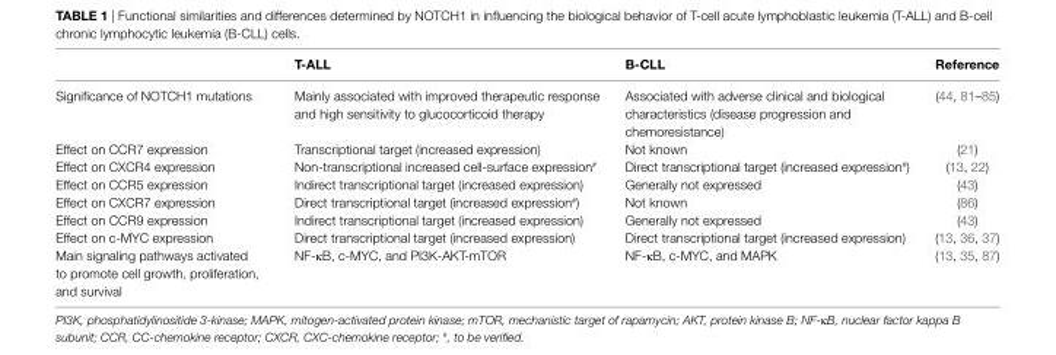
<table><thead><tr><td></td><td>T-ALL</td><td>B-CLL</td><td>Reference</td></tr></thead><tbody><tr><td>Significance of NOTCH1 mutations</td><td>Mainly associated with improved therapeutic response and high sensitivity to glucocorticoid therapy</td><td>Associated with adverse clinical and biological characteristics (disease progression and chemoresistance)</td><td>(44, 81–85)</td></tr><tr><td>Effect on CCR7 expression</td><td>Transcriptional target (increased expression)</td><td>Not known</td><td>(21)</td></tr><tr><td>Effect on CXCR4 expression</td><td>Non-transcriptional increased cell-surface expression<sup>#</sup></td><td>Direct transcriptional target (increased expression<sup>#</sup>)</td><td>(13, 22)</td></tr><tr><td>Effect on CCR5 expression</td><td>Indirect transcriptional target (increased expression)</td><td>Generally not expressed</td><td>(43)</td></tr><tr><td>Effect on CXCR7 expression</td><td>Direct transcriptional target (increased expression<sup>#</sup>)</td><td>Not known</td><td>(86)</td></tr><tr><td>Effect on CCR9 expression</td><td>Indirect transcriptional target (increased expression)</td><td>Generally not expressed</td><td>(43)</td></tr><tr><td>Effect on c-MYC expression</td><td>Direct transcriptional target (increased expression)</td><td>Direct transcriptional target (increased expression)</td><td>(13, 36, 37)</td></tr><tr><td>Main signaling pathways activated to promote cell growth, proliferation, and survival</td><td>NF-κB, c-MYC, and PI3K-AKT-mTOR</td><td>NF-κB, c-MYC, and MAPK</td><td>(13, 35, 87)</td></tr></tbody></table>